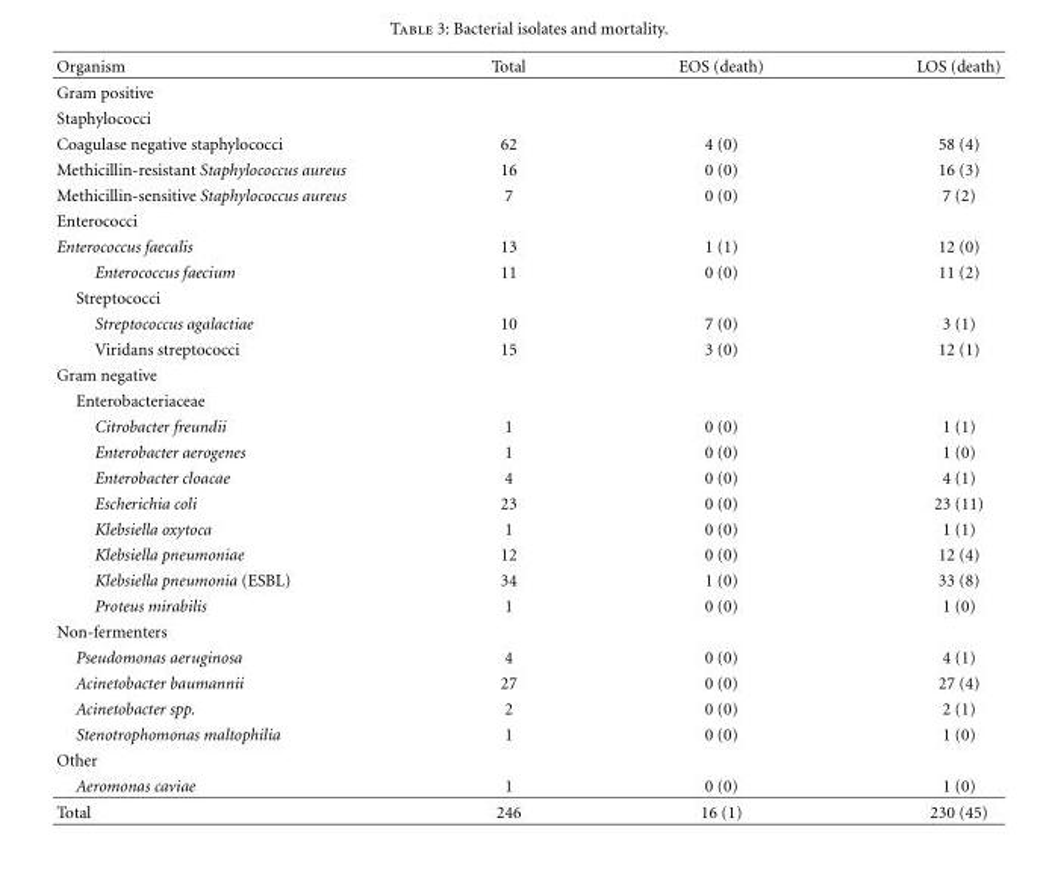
<table><thead><tr><td>Organism</td><td>Total</td><td>EOS (death)</td><td>LOS (death)</td></tr></thead><tbody><tr><td colspan="4">Gram positive</td></tr><tr><td colspan="4">Staphylococci</td></tr><tr><td>Coagulase negative staphylococci</td><td>62</td><td>4 (0)</td><td>58 (4)</td></tr><tr><td>Methicillin-resistant Staphylococcus aureus</td><td>16</td><td>0 (0)</td><td>16 (3)</td></tr><tr><td>Methicillin-sensitive Staphylococcus aureus</td><td>7</td><td>0 (0)</td><td>7 (2)</td></tr><tr><td colspan="4">Enterococci</td></tr><tr><td>Enterococcus faecalis</td><td>13</td><td>1 (1)</td><td>12 (0)</td></tr><tr><td>Enterococcus faecium</td><td>11</td><td>0 (0)</td><td>11 (2)</td></tr><tr><td colspan="4">Streptococci</td></tr><tr><td>Streptococcus agalactiae</td><td>10</td><td>7 (0)</td><td>3 (1)</td></tr><tr><td>Viridans streptococci</td><td>15</td><td>3 (0)</td><td>12 (1)</td></tr><tr><td colspan="4">Gram negative</td></tr><tr><td colspan="4">Enterobacteriaceae</td></tr><tr><td>Citrobacter freundii</td><td>1</td><td>0 (0)</td><td>1 (1)</td></tr><tr><td>Enterobacter aerogenes</td><td>1</td><td>0 (0)</td><td>1 (0)</td></tr><tr><td>Enterobacter cloacae</td><td>4</td><td>0 (0)</td><td>4 (1)</td></tr><tr><td>Escherichia coli</td><td>23</td><td>0 (0)</td><td>23 (11)</td></tr><tr><td>Klebsiella oxytoca</td><td>1</td><td>0 (0)</td><td>1 (1)</td></tr><tr><td>Klebsiella pneumoniae</td><td>12</td><td>0 (0)</td><td>12 (4)</td></tr><tr><td>Klebsiella pneumonia (ESBL)</td><td>34</td><td>1 (0)</td><td>33 (8)</td></tr><tr><td>Proteus mirabilis</td><td>1</td><td>0 (0)</td><td>1 (0)</td></tr><tr><td colspan="4">Non-fermenters</td></tr><tr><td>Pseudomonas aeruginosa</td><td>4</td><td>0 (0)</td><td>4 (1)</td></tr><tr><td>Acinetobacter baumannii</td><td>27</td><td>0 (0)</td><td>27 (4)</td></tr><tr><td>Acinetobacter spp.</td><td>2</td><td>0 (0)</td><td>2 (1)</td></tr><tr><td>Stenotrophomonas maltophilia</td><td>1</td><td>0 (0)</td><td>1 (0)</td></tr><tr><td colspan="4">Other</td></tr><tr><td>Aeromonas caviae</td><td>1</td><td>0 (0)</td><td>1 (0)</td></tr><tr><td>Total</td><td>246</td><td>16 (1)</td><td>230 (45)</td></tr></tbody></table>